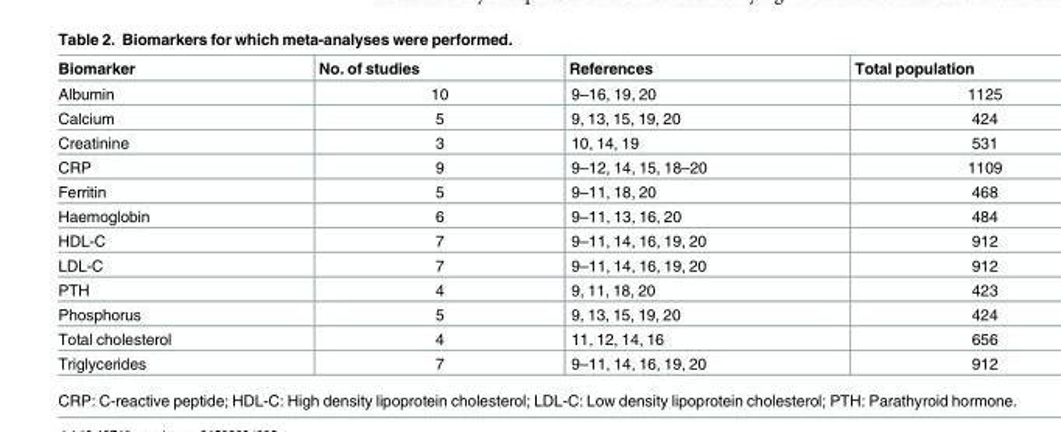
<table><thead><tr><td>Biomarker</td><td>No. of studies</td><td>References</td><td>Total population</td></tr></thead><tbody><tr><td>Albumin</td><td>10</td><td>9–16, 19, 20</td><td>1125</td></tr><tr><td>Calcium</td><td>5</td><td>9, 13, 15, 19, 20</td><td>424</td></tr><tr><td>Creatinine</td><td>3</td><td>10, 14, 19</td><td>531</td></tr><tr><td>CRP</td><td>9</td><td>9–12, 14, 15, 18–20</td><td>1109</td></tr><tr><td>Ferritin</td><td>5</td><td>9–11, 18, 20</td><td>468</td></tr><tr><td>Haemoglobin</td><td>6</td><td>9–11, 13, 16, 20</td><td>484</td></tr><tr><td>HDL-C</td><td>7</td><td>9–11, 14, 16, 19, 20</td><td>912</td></tr><tr><td>LDL-C</td><td>7</td><td>9–11, 14, 16, 19, 20</td><td>912</td></tr><tr><td>PTH</td><td>4</td><td>9, 11, 18, 20</td><td>423</td></tr><tr><td>Phosphorus</td><td>5</td><td>9, 13, 15, 19, 20</td><td>424</td></tr><tr><td>Total cholesterol</td><td>4</td><td>11, 12, 14, 16</td><td>656</td></tr><tr><td>Triglycerides</td><td>7</td><td>9–11, 14, 16, 19, 20</td><td>912</td></tr></tbody></table>